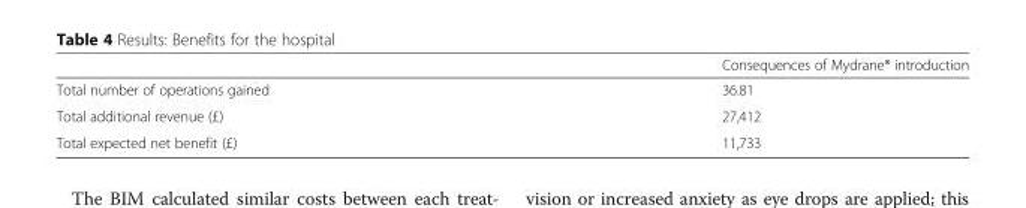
<table><thead><tr><td></td><td>Consequences of Mydrane® introduction</td></tr></thead><tbody><tr><td>Total number of operations gained</td><td>36.81</td></tr><tr><td>Total additional revenue (£)</td><td>27,412</td></tr><tr><td>Total expected net benefit (£)</td><td>11,733</td></tr></tbody></table>